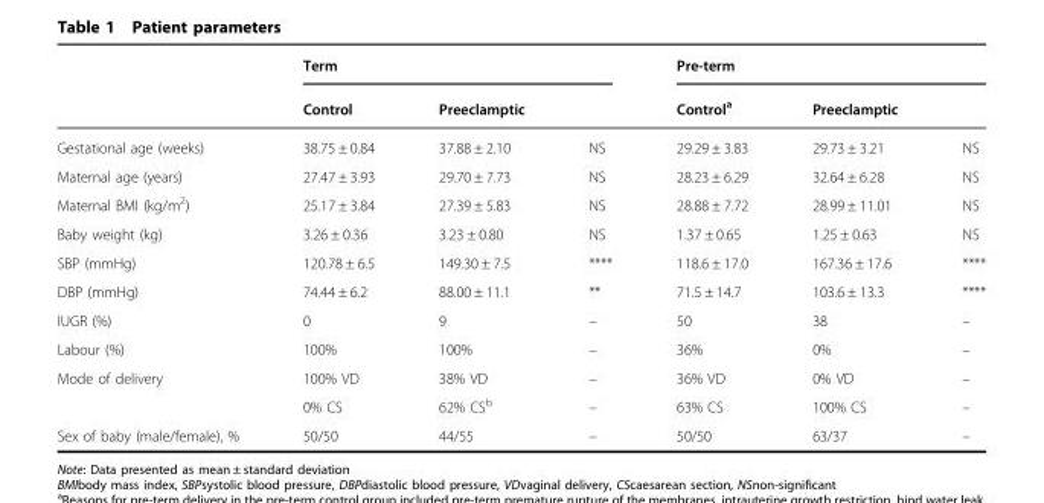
<table><thead><tr><td rowspan="2"></td><td colspan="3">Term</td><td colspan="3">Pre-term</td></tr><tr><td>Control</td><td>Preeclamptic</td><td></td><td>Control<sup>a</sup></td><td>Preeclamptic</td><td></td></tr></thead><tbody><tr><td>Gestational age (weeks)</td><td>38.75 ± 0.84</td><td>37.88 ± 2.10</td><td>NS</td><td>29.29 ± 3.83</td><td>29.73 ± 3.21</td><td>NS</td></tr><tr><td>Maternal age (years)</td><td>27.47 ± 3.93</td><td>29.70 ± 7.73</td><td>NS</td><td>28.23 ± 6.29</td><td>32.64 ± 6.28</td><td>NS</td></tr><tr><td>Maternal BMI (kg/m<sup>2</sup>)</td><td>25.17 ± 3.84</td><td>27.39 ± 5.83</td><td>NS</td><td>28.88 ± 7.72</td><td>28.99 ± 11.01</td><td>NS</td></tr><tr><td>Baby weight (kg)</td><td>3.26 ± 0.36</td><td>3.23 ± 0.80</td><td>NS</td><td>1.37 ± 0.65</td><td>1.25 ± 0.63</td><td>NS</td></tr><tr><td>SBP (mmHg)</td><td>120.78 ± 6.5</td><td>149.30 ± 7.5</td><td>****</td><td>118.6 ± 17.0</td><td>167.36 ± 17.6</td><td>****</td></tr><tr><td>DBP (mmHg)</td><td>74.44 ± 6.2</td><td>88.00 ± 11.1</td><td>**</td><td>71.5 ± 14.7</td><td>103.6 ± 13.3</td><td>****</td></tr><tr><td>IUGR (%)</td><td>0</td><td>9</td><td>–</td><td>50</td><td>38</td><td>–</td></tr><tr><td>Labour (%)</td><td>100%</td><td>100%</td><td>–</td><td>36%</td><td>0%</td><td>–</td></tr><tr><td rowspan="2">Mode of delivery</td><td>100% VD</td><td>38% VD</td><td>–</td><td>36% VD</td><td>0% VD</td><td>–</td></tr><tr><td>0% CS</td><td>62% CS<sup>b</sup></td><td>–</td><td>63% CS</td><td>100% CS</td><td>–</td></tr><tr><td>Sex of baby (male/female), %</td><td>50/50</td><td>44/55</td><td>–</td><td>50/50</td><td>63/37</td><td>–</td></tr></tbody></table>